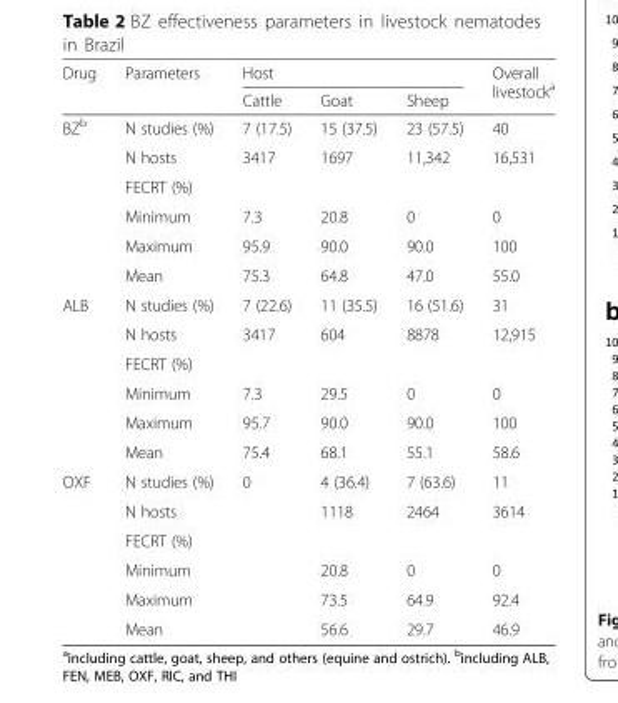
<table><thead><tr><td rowspan="2">Drug</td><td rowspan="2">Parameters</td><td colspan="3">Host</td><td rowspan="2">Overall livestock<sup>a</sup></td></tr><tr><td>Cattle</td><td>Goat</td><td>Sheep</td></tr></thead><tbody><tr><td rowspan="6">BZ<sup>b</sup></td><td>N studies (%)</td><td>7 (17.5)</td><td>15 (37.5)</td><td>23 (57.5)</td><td>40</td></tr><tr><td>N hosts</td><td>3417</td><td>1697</td><td>11,342</td><td>16,531</td></tr><tr><td colspan="5">FECRT (%)</td></tr><tr><td>Minimum</td><td>7.3</td><td>20.8</td><td>0</td><td>0</td></tr><tr><td>Maximum</td><td>95.9</td><td>90.0</td><td>90.0</td><td>100</td></tr><tr><td>Mean</td><td>75.3</td><td>64.8</td><td>47.0</td><td>55.0</td></tr><tr><td rowspan="6">ALB</td><td>N studies (%)</td><td>7 (22.6)</td><td>11 (35.5)</td><td>16 (51.6)</td><td>31</td></tr><tr><td>N hosts</td><td>3417</td><td>604</td><td>8878</td><td>12,915</td></tr><tr><td colspan="5">FECRT (%)</td></tr><tr><td>Minimum</td><td>7.3</td><td>29.5</td><td>0</td><td>0</td></tr><tr><td>Maximum</td><td>95.7</td><td>90.0</td><td>90.0</td><td>100</td></tr><tr><td>Mean</td><td>75.4</td><td>68.1</td><td>55.1</td><td>58.6</td></tr><tr><td rowspan="6">OXF</td><td>N studies (%)</td><td>0</td><td>4 (36.4)</td><td>7 (63.6)</td><td>11</td></tr><tr><td>N hosts</td><td></td><td>1118</td><td>2464</td><td>3614</td></tr><tr><td colspan="5">FECRT (%)</td></tr><tr><td>Minimum</td><td></td><td>20.8</td><td>0</td><td>0</td></tr><tr><td>Maximum</td><td></td><td>73.5</td><td>64.9</td><td>92.4</td></tr><tr><td>Mean</td><td></td><td>56.6</td><td>29.7</td><td>46.9</td></tr></tbody></table>